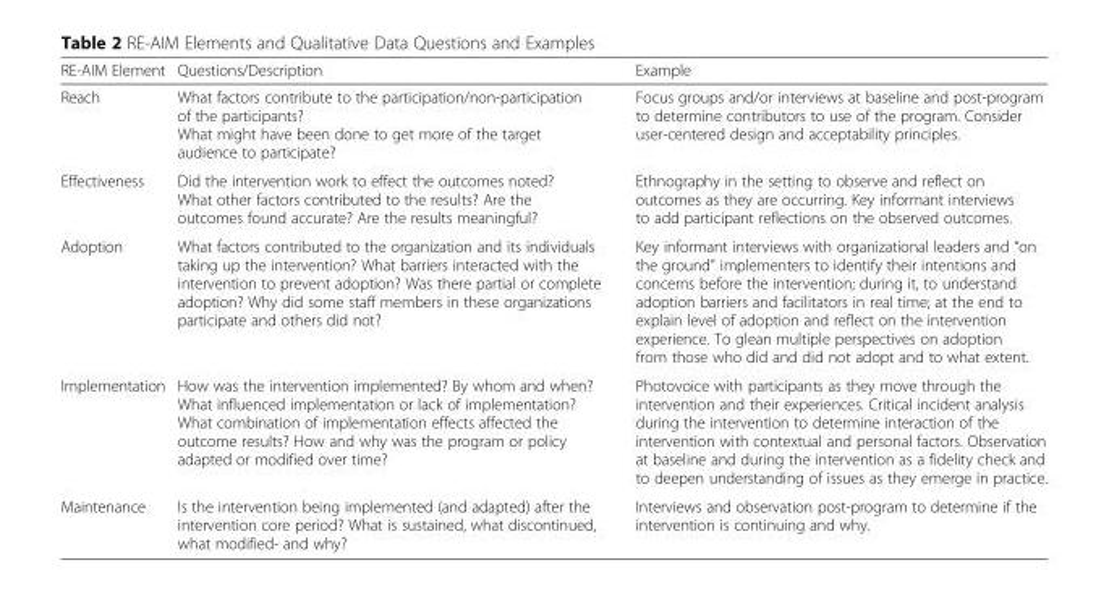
<table><thead><tr><td>RE-AIM Element</td><td>Questions/Description</td><td>Example</td></tr></thead><tbody><tr><td>Reach</td><td>What factors contribute to the participation/non-participation of the participants? What might have been done to get more of the target audience to participate?</td><td>Focus groups and/or interviews at baseline and post-program to determine contributors to use of the program. Consider user-centered design and acceptability principles.</td></tr><tr><td>Effectiveness</td><td>Did the intervention work to effect the outcomes noted? What other factors contributed to the results? Are the outcomes found accurate? Are the results meaningful?</td><td>Ethnography in the setting to observe and reflect on outcomes as they are occurring. Key informant interviews to add participant reflections on the observed outcomes.</td></tr><tr><td>Adoption</td><td>What factors contributed to the organization and its individuals taking up the intervention? What barriers interacted with the intervention to prevent adoption? Was there partial or complete adoption? Why did some staff members in these organizations participate and others did not?</td><td>Key informant interviews with organizational leaders and “on the ground” implementers to identify their intentions and concerns before the intervention; during it, to understand adoption barriers and facilitators in real time; at the end to explain level of adoption and reflect on the intervention experience. To glean multiple perspectives on adoption from those who did and did not adopt and to what extent.</td></tr><tr><td>Implementation</td><td>How was the intervention implemented? By whom and when? What influenced implementation or lack of implementation? What combination of implementation effects affected the outcome results? How and why was the program or policy adapted or modified over time?</td><td>Photovoice with participants as they move through the intervention and their experiences. Critical incident analysis during the intervention to determine interaction of the intervention with contextual and personal factors. Observation at baseline and during the intervention as a fidelity check and to deepen understanding of issues as they emerge in practice.</td></tr><tr><td>Maintenance</td><td>Is the intervention being implemented (and adapted) after the intervention core period? What is sustained, what discontinued, what modified- and why?</td><td>Interviews and observation post-program to determine if the intervention is continuing and why.</td></tr></tbody></table>